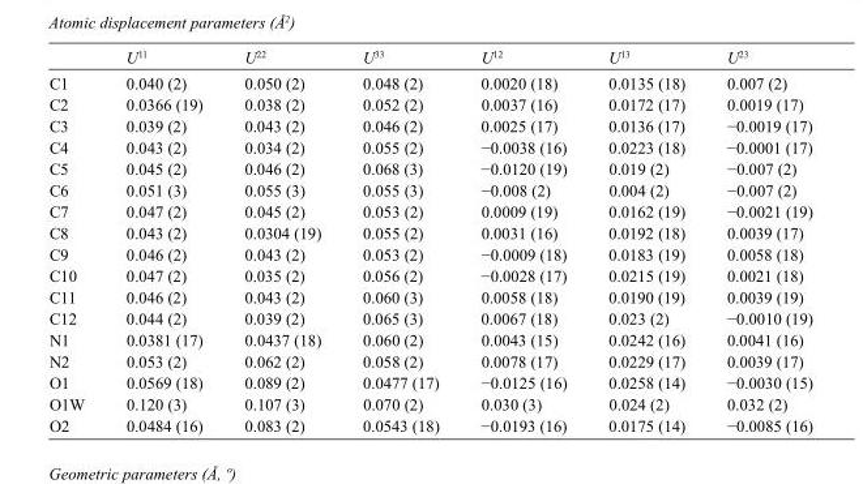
<table><thead><tr><td></td><td>U<sup>11</sup></td><td>U<sup>22</sup></td><td>U<sup>33</sup></td><td>U<sup>12</sup></td><td>U<sup>13</sup></td><td>U<sup>23</sup></td></tr></thead><tbody><tr><td>C1</td><td>0.040 (2)</td><td>0.050 (2)</td><td>0.048 (2)</td><td>0.0020 (18)</td><td>0.0135 (18)</td><td>0.007 (2)</td></tr><tr><td>C2</td><td>0.0366 (19)</td><td>0.038 (2)</td><td>0.052 (2)</td><td>0.0037 (16)</td><td>0.0172 (17)</td><td>0.0019 (17)</td></tr><tr><td>C3</td><td>0.039 (2)</td><td>0.043 (2)</td><td>0.046 (2)</td><td>0.0025 (17)</td><td>0.0136 (17)</td><td>−0.0019 (17)</td></tr><tr><td>C4</td><td>0.043 (2)</td><td>0.034 (2)</td><td>0.055 (2)</td><td>−0.0038 (16)</td><td>0.0223 (18)</td><td>−0.0001 (17)</td></tr><tr><td>C5</td><td>0.045 (2)</td><td>0.046 (2)</td><td>0.068 (3)</td><td>−0.0120 (19)</td><td>0.019 (2)</td><td>−0.007 (2)</td></tr><tr><td>C6</td><td>0.051 (3)</td><td>0.055 (3)</td><td>0.055 (3)</td><td>−0.008 (2)</td><td>0.004 (2)</td><td>−0.007 (2)</td></tr><tr><td>C7</td><td>0.047 (2)</td><td>0.045 (2)</td><td>0.053 (2)</td><td>0.0009 (19)</td><td>0.0162 (19)</td><td>−0.0021 (19)</td></tr><tr><td>C8</td><td>0.043 (2)</td><td>0.0304 (19)</td><td>0.055 (2)</td><td>0.0031 (16)</td><td>0.0192 (18)</td><td>0.0039 (17)</td></tr><tr><td>C9</td><td>0.046 (2)</td><td>0.043 (2)</td><td>0.053 (2)</td><td>−0.0009 (18)</td><td>0.0183 (19)</td><td>0.0058 (18)</td></tr><tr><td>C10</td><td>0.047 (2)</td><td>0.035 (2)</td><td>0.056 (2)</td><td>−0.0028 (17)</td><td>0.0215 (19)</td><td>0.0021 (18)</td></tr><tr><td>C11</td><td>0.046 (2)</td><td>0.043 (2)</td><td>0.060 (3)</td><td>0.0058 (18)</td><td>0.0190 (19)</td><td>0.0039 (19)</td></tr><tr><td>C12</td><td>0.044 (2)</td><td>0.039 (2)</td><td>0.065 (3)</td><td>0.0067 (18)</td><td>0.023 (2)</td><td>−0.0010 (19)</td></tr><tr><td>N1</td><td>0.0381 (17)</td><td>0.0437 (18)</td><td>0.060 (2)</td><td>0.0043 (15)</td><td>0.0242 (16)</td><td>0.0041 (16)</td></tr><tr><td>N2</td><td>0.053 (2)</td><td>0.062 (2)</td><td>0.058 (2)</td><td>0.0078 (17)</td><td>0.0229 (17)</td><td>0.0039 (17)</td></tr><tr><td>O1</td><td>0.0569 (18)</td><td>0.089 (2)</td><td>0.0477 (17)</td><td>−0.0125 (16)</td><td>0.0258 (14)</td><td>−0.0030 (15)</td></tr><tr><td>O1W</td><td>0.120 (3)</td><td>0.107 (3)</td><td>0.070 (2)</td><td>0.030 (3)</td><td>0.024 (2)</td><td>0.032 (2)</td></tr><tr><td>O2</td><td>0.0484 (16)</td><td>0.083 (2)</td><td>0.0543 (18)</td><td>−0.0193 (16)</td><td>0.0175 (14)</td><td>−0.0085 (16)</td></tr></tbody></table>